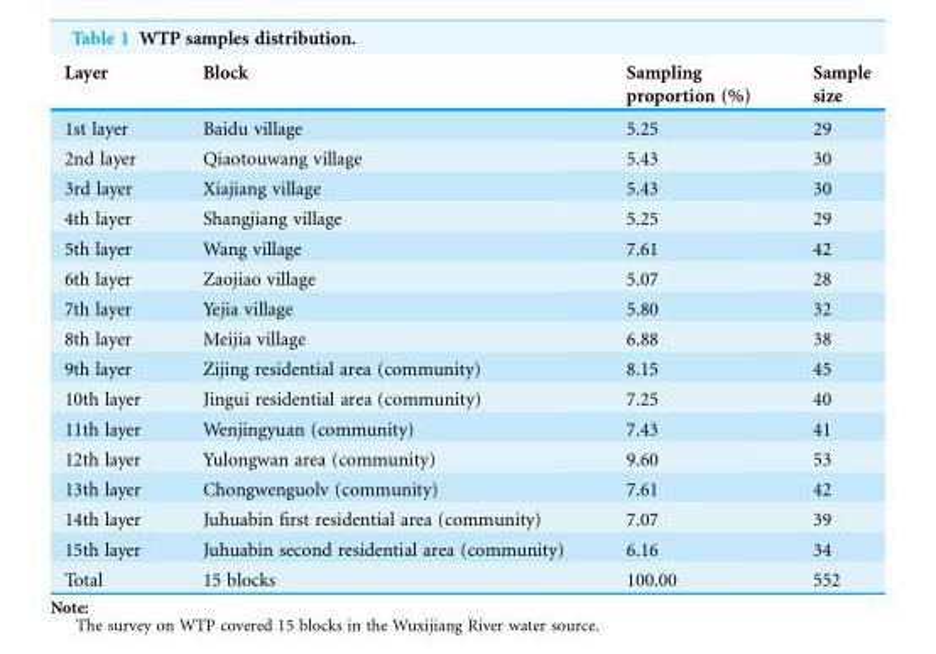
<table><thead><tr><td>Layer</td><td>Block</td><td>Sampling proportion (%)</td><td>Sample size</td></tr></thead><tbody><tr><td>1st layer</td><td>Baidu village</td><td>5.25</td><td>29</td></tr><tr><td>2nd layer</td><td>Qiaotouwang village</td><td>5.43</td><td>30</td></tr><tr><td>3rd layer</td><td>Xiajiang village</td><td>5.43</td><td>30</td></tr><tr><td>4th layer</td><td>Shangjiang village</td><td>5.25</td><td>29</td></tr><tr><td>5th layer</td><td>Wang village</td><td>7.61</td><td>42</td></tr><tr><td>6th layer</td><td>Zaojiao village</td><td>5.07</td><td>28</td></tr><tr><td>7th layer</td><td>Yejia village</td><td>5.80</td><td>32</td></tr><tr><td>8th layer</td><td>Meijia village</td><td>6.88</td><td>38</td></tr><tr><td>9th layer</td><td>Zijing residential area (community)</td><td>8.15</td><td>45</td></tr><tr><td>10th layer</td><td>Jingui residential area (community)</td><td>7.25</td><td>40</td></tr><tr><td>11th layer</td><td>Wenjingyuan (community)</td><td>7.43</td><td>41</td></tr><tr><td>12th layer</td><td>Yulongwan area (community)</td><td>9.60</td><td>53</td></tr><tr><td>13th layer</td><td>Chongwenguolv (community)</td><td>7.61</td><td>42</td></tr><tr><td>14th layer</td><td>Juhuabin first residential area (community)</td><td>7.07</td><td>39</td></tr><tr><td>15th layer</td><td>Juhuabin second residential area (community)</td><td>6.16</td><td>34</td></tr><tr><td>Total</td><td>15 blocks</td><td>100.00</td><td>552</td></tr></tbody></table>